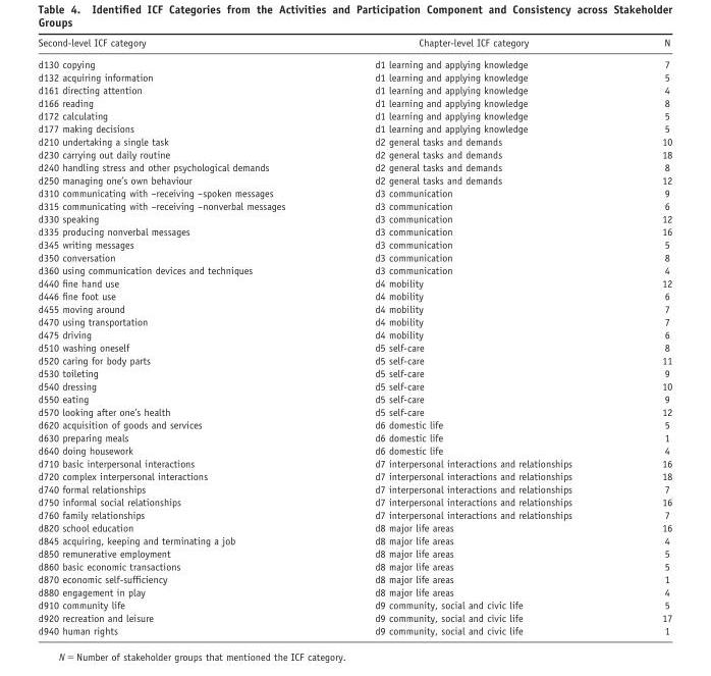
<table><thead><tr><td>Second-level ICF category</td><td>Chapter-level ICF category</td><td>N</td></tr></thead><tbody><tr><td>d130 copying</td><td>d1 learning and applying knowledge</td><td>7</td></tr><tr><td>d132 acquiring information</td><td>d1 learning and applying knowledge</td><td>5</td></tr><tr><td>d161 directing attention</td><td>d1 learning and applying knowledge</td><td>4</td></tr><tr><td>d166 reading</td><td>d1 learning and applying knowledge</td><td>8</td></tr><tr><td>d172 calculating</td><td>d1 learning and applying knowledge</td><td>5</td></tr><tr><td>d177 making decisions</td><td>d1 learning and applying knowledge</td><td>5</td></tr><tr><td>d210 undertaking a single task</td><td>d2 general tasks and demands</td><td>10</td></tr><tr><td>d230 carrying out daily routine</td><td>d2 general tasks and demands</td><td>18</td></tr><tr><td>d240 handling stress and other psychological demands</td><td>d2 general tasks and demands</td><td>8</td></tr><tr><td>d250 managing one’s own behaviour</td><td>d2 general tasks and demands</td><td>12</td></tr><tr><td>d310 communicating with –receiving –spoken messages</td><td>d3 communication</td><td>9</td></tr><tr><td>d315 communicating with –receiving –nonverbal messages</td><td>d3 communication</td><td>6</td></tr><tr><td>d330 speaking</td><td>d3 communication</td><td>12</td></tr><tr><td>d335 producing nonverbal messages</td><td>d3 communication</td><td>16</td></tr><tr><td>d345 writing messages</td><td>d3 communication</td><td>5</td></tr><tr><td>d350 conversation</td><td>d3 communication</td><td>8</td></tr><tr><td>d360 using communication devices and techniques</td><td>d3 communication</td><td>4</td></tr><tr><td>d440 fine hand use</td><td>d4 mobility</td><td>12</td></tr><tr><td>d446 fine foot use</td><td>d4 mobility</td><td>6</td></tr><tr><td>d455 moving around</td><td>d4 mobility</td><td>7</td></tr><tr><td>d470 using transportation</td><td>d4 mobility</td><td>7</td></tr><tr><td>d475 driving</td><td>d4 mobility</td><td>6</td></tr><tr><td>d510 washing oneself</td><td>d5 self-care</td><td>8</td></tr><tr><td>d520 caring for body parts</td><td>d5 self-care</td><td>11</td></tr><tr><td>d530 toileting</td><td>d5 self-care</td><td>9</td></tr><tr><td>d540 dressing</td><td>d5 self-care</td><td>10</td></tr><tr><td>d550 eating</td><td>d5 self-care</td><td>9</td></tr><tr><td>d570 looking after one’s health</td><td>d5 self-care</td><td>12</td></tr><tr><td>d620 acquisition of goods and services</td><td>d6 domestic life</td><td>5</td></tr><tr><td>d630 preparing meals</td><td>d6 domestic life</td><td>1</td></tr><tr><td>d640 doing housework</td><td>d6 domestic life</td><td>4</td></tr><tr><td>d710 basic interpersonal interactions</td><td>d7 interpersonal interactions and relationships</td><td>16</td></tr><tr><td>d720 complex interpersonal interactions</td><td>d7 interpersonal interactions and relationships</td><td>18</td></tr><tr><td>d740 formal relationships</td><td>d7 interpersonal interactions and relationships</td><td>7</td></tr><tr><td>d750 informal social relationships</td><td>d7 interpersonal interactions and relationships</td><td>16</td></tr><tr><td>d760 family relationships</td><td>d7 interpersonal interactions and relationships</td><td>7</td></tr><tr><td>d820 school education</td><td>d8 major life areas</td><td>16</td></tr><tr><td>d845 acquiring, keeping and terminating a job</td><td>d8 major life areas</td><td>4</td></tr><tr><td>d850 remunerative employment</td><td>d8 major life areas</td><td>5</td></tr><tr><td>d860 basic economic transactions</td><td>d8 major life areas</td><td>5</td></tr><tr><td>d870 economic self-sufficiency</td><td>d8 major life areas</td><td>1</td></tr><tr><td>d880 engagement in play</td><td>d8 major life areas</td><td>4</td></tr><tr><td>d910 community life</td><td>d9 community, social and civic life</td><td>5</td></tr><tr><td>d920 recreation and leisure</td><td>d9 community, social and civic life</td><td>17</td></tr><tr><td>d940 human rights</td><td>d9 community, social and civic life</td><td>1</td></tr></tbody></table>